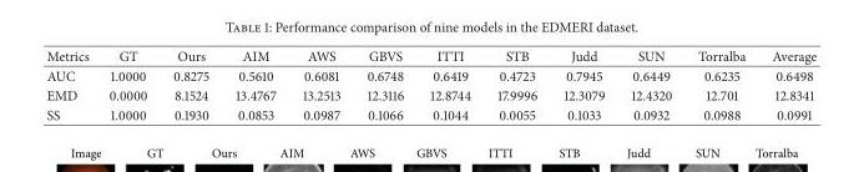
<table><thead><tr><td>Metrics</td><td>GT</td><td>Ours</td><td>AIM</td><td>AWS</td><td>GBVS</td><td>ITTI</td><td>STB</td><td>Judd</td><td>SUN</td><td>Torralba</td><td>Average</td></tr></thead><tbody><tr><td>AUC</td><td>1.0000</td><td>0.8275</td><td>0.5610</td><td>0.6081</td><td>0.6748</td><td>0.6419</td><td>0.4723</td><td>0.7945</td><td>0.6449</td><td>0.6235</td><td>0.6498</td></tr><tr><td>EMD</td><td>0.0000</td><td>8.1524</td><td>13.4767</td><td>13.2513</td><td>12.3116</td><td>12.8744</td><td>17.9996</td><td>12.3079</td><td>12.4320</td><td>12.701</td><td>12.8341</td></tr><tr><td>SS</td><td>1.0000</td><td>0.1930</td><td>0.0853</td><td>0.0987</td><td>0.1066</td><td>0.1044</td><td>0.0055</td><td>0.1033</td><td>0.0932</td><td>0.0988</td><td>0.0991</td></tr></tbody></table>